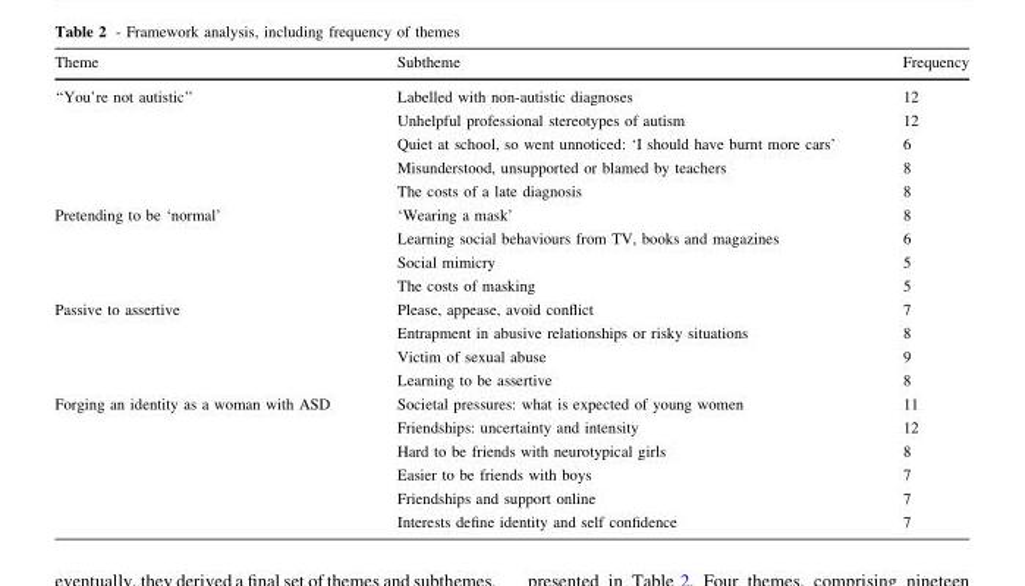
<table><thead><tr><td>Theme</td><td>Subtheme</td><td>Frequency</td></tr></thead><tbody><tr><td rowspan="5">‘‘You’re not autistic’’</td><td>Labelled with non-autistic diagnoses</td><td>12</td></tr><tr><td>Unhelpful professional stereotypes of autism</td><td>12</td></tr><tr><td>Quiet at school, so went unnoticed: ‘I should have burnt more cars’</td><td>6</td></tr><tr><td>Misunderstood, unsupported or blamed by teachers</td><td>8</td></tr><tr><td>The costs of a late diagnosis</td><td>8</td></tr><tr><td rowspan="4">Pretending to be ‘normal’</td><td>‘Wearing a mask’</td><td>8</td></tr><tr><td>Learning social behaviours from TV, books and magazines</td><td>6</td></tr><tr><td>Social mimicry</td><td>5</td></tr><tr><td>The costs of masking</td><td>5</td></tr><tr><td rowspan="4">Passive to assertive</td><td>Please, appease, avoid conflict</td><td>7</td></tr><tr><td>Entrapment in abusive relationships or risky situations</td><td>8</td></tr><tr><td>Victim of sexual abuse</td><td>9</td></tr><tr><td>Learning to be assertive</td><td>8</td></tr><tr><td rowspan="6">Forging an identity as a woman with ASD</td><td>Societal pressures: what is expected of young women</td><td>11</td></tr><tr><td>Friendships: uncertainty and intensity</td><td>12</td></tr><tr><td>Hard to be friends with neurotypical girls</td><td>8</td></tr><tr><td>Easier to be friends with boys</td><td>7</td></tr><tr><td>Friendships and support online</td><td>7</td></tr><tr><td>Interests define identity and self confidence</td><td>7</td></tr></tbody></table>